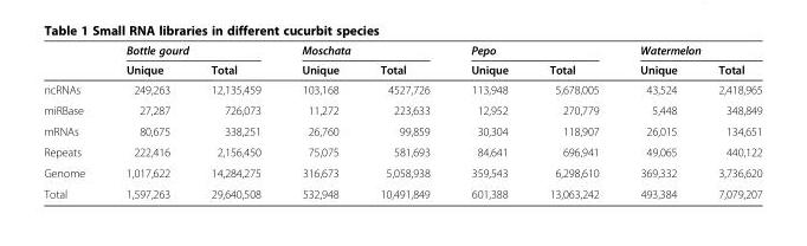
<table><thead><tr><td rowspan="2"></td><td colspan="2">Bottle gourd</td><td colspan="2">Moschata</td><td colspan="2">Pepo</td><td colspan="2">Watermelon</td></tr><tr><td>Unique</td><td>Total</td><td>Unique</td><td>Total</td><td>Unique</td><td>Total</td><td>Unique</td><td>Total</td></tr></thead><tbody><tr><td>ncRNAs</td><td>249,263</td><td>12,135,459</td><td>103,168</td><td>4527,726</td><td>113,948</td><td>5,678,005</td><td>43,524</td><td>2,418,965</td></tr><tr><td>miRBase</td><td>27,287</td><td>726,073</td><td>11,272</td><td>223,633</td><td>12,952</td><td>270,779</td><td>5,448</td><td>348,849</td></tr><tr><td>mRNAs</td><td>80,675</td><td>338,251</td><td>26,760</td><td>99,859</td><td>30,304</td><td>118,907</td><td>26,015</td><td>134,651</td></tr><tr><td>Repeats</td><td>222,416</td><td>2,156,450</td><td>75,075</td><td>581,693</td><td>84,641</td><td>696,941</td><td>49,065</td><td>440,122</td></tr><tr><td>Genome</td><td>1,017,622</td><td>14,284,275</td><td>316,673</td><td>5,058,938</td><td>359,543</td><td>6,298,610</td><td>369,332</td><td>3,736,620</td></tr><tr><td>Total</td><td>1,597,263</td><td>29,640,508</td><td>532,948</td><td>10,491,849</td><td>601,388</td><td>13,063,242</td><td>493,384</td><td>7,079,207</td></tr></tbody></table>